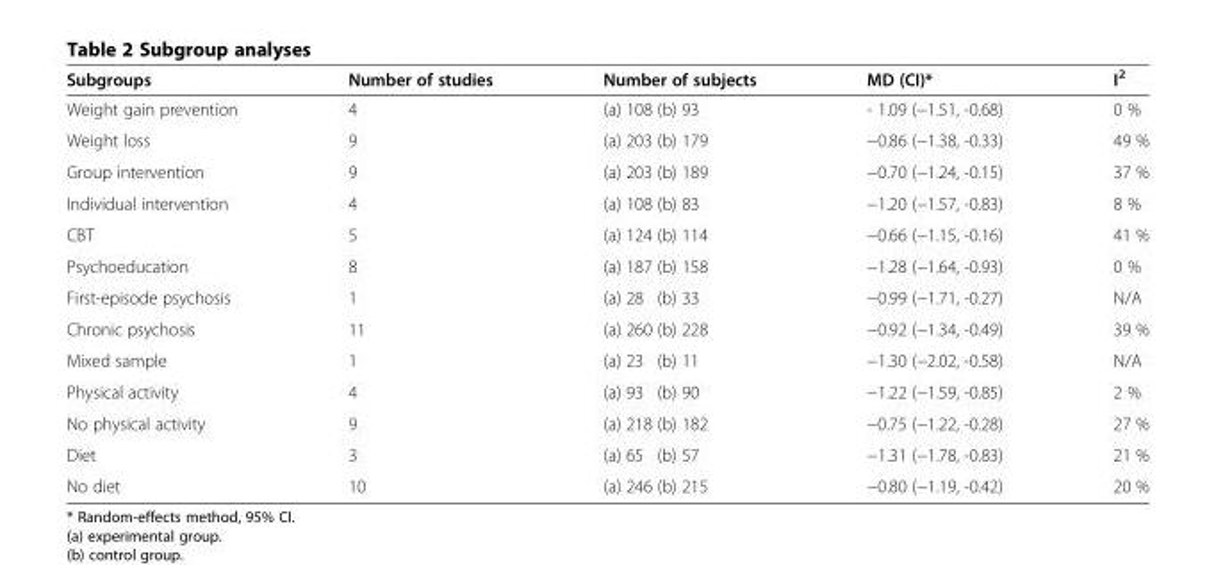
<table><thead><tr><td>Subgroups</td><td>Number of studies</td><td>Number of subjects</td><td>MD (CI)*</td><td>I<sup>2</sup></td></tr></thead><tbody><tr><td>Weight gain prevention</td><td>4</td><td>(a) 108 (b) 93</td><td>- 1.09 (−1.51, -0.68)</td><td>0 %</td></tr><tr><td>Weight loss</td><td>9</td><td>(a) 203 (b) 179</td><td>−0.86 (−1.38, -0.33)</td><td>49 %</td></tr><tr><td>Group intervention</td><td>9</td><td>(a) 203 (b) 189</td><td>−0.70 (−1.24, -0.15)</td><td>37 %</td></tr><tr><td>Individual intervention</td><td>4</td><td>(a) 108 (b) 83</td><td>−1.20 (−1.57, -0.83)</td><td>8 %</td></tr><tr><td>CBT</td><td>5</td><td>(a) 124 (b) 114</td><td>−0.66 (−1.15, -0.16)</td><td>41 %</td></tr><tr><td>Psychoeducation</td><td>8</td><td>(a) 187 (b) 158</td><td>−1.28 (−1.64, -0.93)</td><td>0 %</td></tr><tr><td>First-episode psychosis</td><td>1</td><td>(a) 28 (b) 33</td><td>−0.99 (−1.71, -0.27)</td><td>N/A</td></tr><tr><td>Chronic psychosis</td><td>11</td><td>(a) 260 (b) 228</td><td>−0.92 (−1.34, -0.49)</td><td>39 %</td></tr><tr><td>Mixed sample</td><td>1</td><td>(a) 23 (b) 11</td><td>−1.30 (−2.02, -0.58)</td><td>N/A</td></tr><tr><td>Physical activity</td><td>4</td><td>(a) 93 (b) 90</td><td>−1.22 (−1.59, -0.85)</td><td>2 %</td></tr><tr><td>No physical activity</td><td>9</td><td>(a) 218 (b) 182</td><td>−0.75 (−1.22, -0.28)</td><td>27 %</td></tr><tr><td>Diet</td><td>3</td><td>(a) 65 (b) 57</td><td>−1.31 (−1.78, -0.83)</td><td>21 %</td></tr><tr><td>No diet</td><td>10</td><td>(a) 246 (b) 215</td><td>−0.80 (−1.19, -0.42)</td><td>20 %</td></tr></tbody></table>